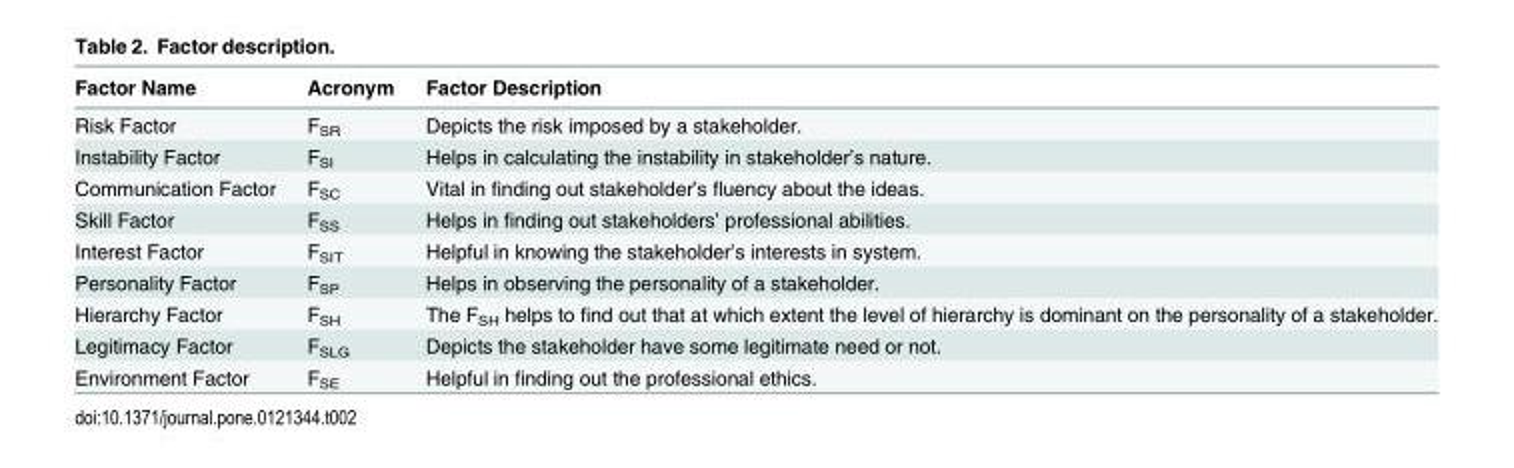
<table><thead><tr><td>Factor Name</td><td>Acronym</td><td>Factor Description</td></tr></thead><tbody><tr><td>Risk Factor</td><td>F<sub>SR</sub></td><td>Depicts the risk imposed by a stakeholder.</td></tr><tr><td>Instability Factor</td><td>F<sub>SI</sub></td><td>Helps in calculating the instability in stakeholder’s nature.</td></tr><tr><td>Communication Factor</td><td>F<sub>SC</sub></td><td>Vital in finding out stakeholder’s fluency about the ideas.</td></tr><tr><td>Skill Factor</td><td>F<sub>SS</sub></td><td>Helps in finding out stakeholders’ professional abilities.</td></tr><tr><td>Interest Factor</td><td>F<sub>SIT</sub></td><td>Helpful in knowing the stakeholder’s interests in system.</td></tr><tr><td>Personality Factor</td><td>F<sub>SP</sub></td><td>Helps in observing the personality of a stakeholder.</td></tr><tr><td>Hierarchy Factor</td><td>F<sub>SH</sub></td><td>The F<sub>SH</sub> helps to find out that at which extent the level of hierarchy is dominant on the personality of a stakeholder.</td></tr><tr><td>Legitimacy Factor</td><td>F<sub>SLG</sub></td><td>Depicts the stakeholder have some legitimate need or not.</td></tr><tr><td>Environment Factor</td><td>F<sub>SE</sub></td><td>Helpful in finding out the professional ethics.</td></tr></tbody></table>